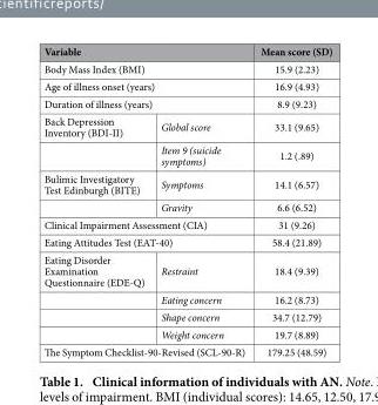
<table><thead><tr><td colspan="2">Variable</td><td>Mean score (SD)</td></tr></thead><tbody><tr><td colspan="2">Body Mass Index (BMI)</td><td>15.9 (2.23)</td></tr><tr><td colspan="2">Age of illness onset (years)</td><td>16.9 (4.93)</td></tr><tr><td colspan="2">Duration of illness (years)</td><td>8.9 (9.23)</td></tr><tr><td rowspan="2">Back Depression Inventory (BDI-II)</td><td>Global score</td><td>33.1 (9.65)</td></tr><tr><td>Item 9 (suicide symptoms)</td><td>1.2 (.89)</td></tr><tr><td rowspan="2">Bulimic Investigatory Test Edinburgh (BITE)</td><td>Symptoms</td><td>14.1 (6.57)</td></tr><tr><td>Gravity</td><td>6.6 (6.52)</td></tr><tr><td colspan="2">Clinical Impairment Assessment (CIA)</td><td>31 (9.26)</td></tr><tr><td colspan="2">Eating Attitudes Test (EAT-40)</td><td>58.4 (21.89)</td></tr><tr><td rowspan="4">Eating Disorder Examination Questionnaire (EDE-Q)</td><td>Restraint</td><td>18.4 (9.39)</td></tr><tr><td>Eating concern</td><td>16.2 (8.73)</td></tr><tr><td>Shape concern</td><td>34.7 (12.79)</td></tr><tr><td>Weight concern</td><td>19.7 (8.89)</td></tr><tr><td colspan="2">The Symptom Checklist-90-Revised (SCL-90-R)</td><td>179.25 (48.59)</td></tr></tbody></table>